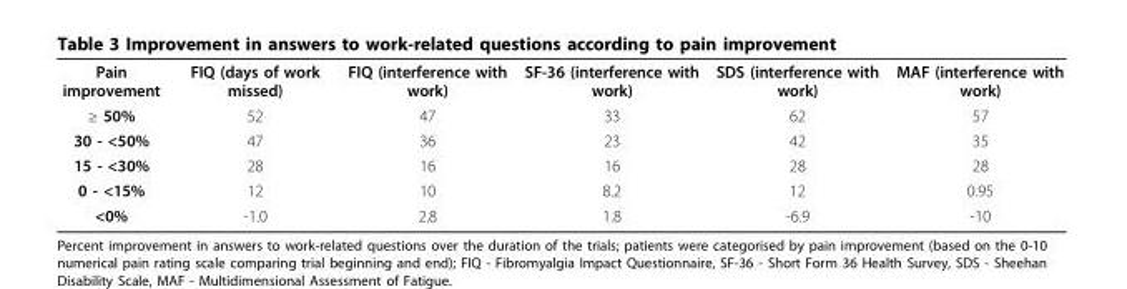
<table><tbody><tr><td>Pain improvement</td><td>FIQ (days of work missed)</td><td>FIQ (interference with work)</td><td>SF-36 (interference with work)</td><td>SDS (interference with work)</td><td>MAF (interference with work)</td></tr><tr><td>≥ 50%</td><td>52</td><td>47</td><td>33</td><td>62</td><td>57</td></tr><tr><td>30 - &lt;50%</td><td>47</td><td>36</td><td>23</td><td>42</td><td>35</td></tr><tr><td>15 - &lt;30%</td><td>28</td><td>16</td><td>16</td><td>28</td><td>28</td></tr><tr><td>0 - &lt;15%</td><td>12</td><td>10</td><td>8.2</td><td>12</td><td>0.95</td></tr><tr><td>&lt;0%</td><td>-1.0</td><td>2.8</td><td>1.8</td><td>-6.9</td><td>-10</td></tr></tbody></table>